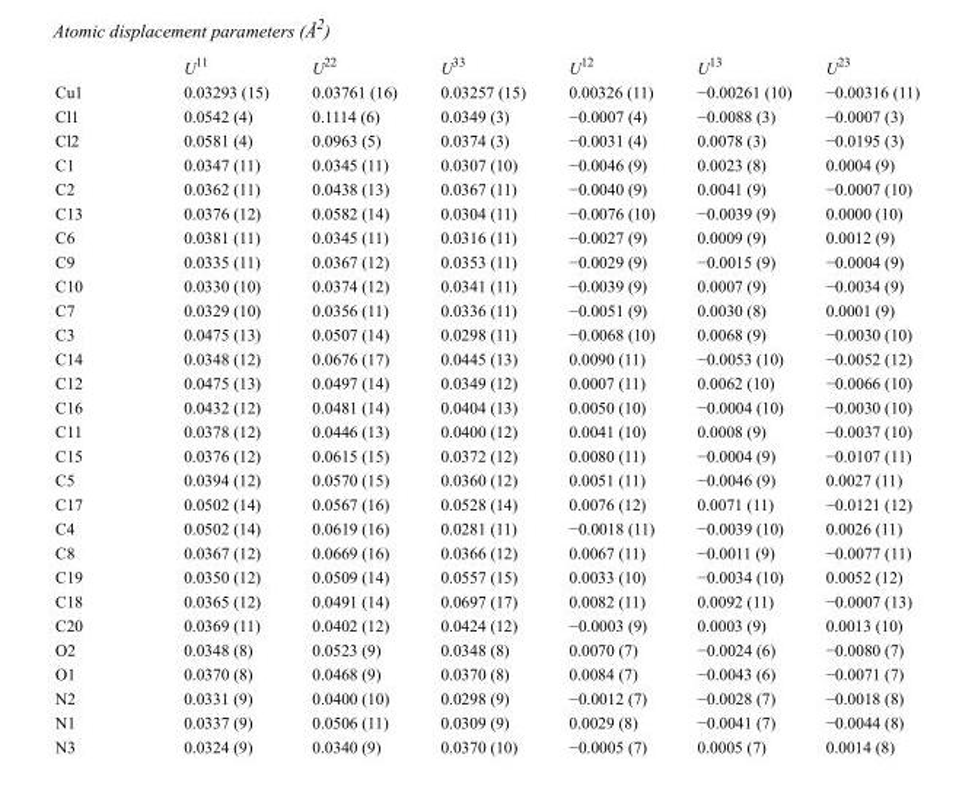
<table><thead><tr><td></td><td>U<sup>11</sup></td><td>U<sup>22</sup></td><td>U<sup>33</sup></td><td>U<sup>12</sup></td><td>U<sup>13</sup></td><td>U<sup>23</sup></td></tr></thead><tbody><tr><td>Cu1</td><td>0.03293 (15)</td><td>0.03761 (16)</td><td>0.03257 (15)</td><td>0.00326 (11)</td><td>−0.00261 (10)</td><td>−0.00316 (11)</td></tr><tr><td>Cl1</td><td>0.0542 (4)</td><td>0.1114 (6)</td><td>0.0349 (3)</td><td>−0.0007 (4)</td><td>−0.0088 (3)</td><td>−0.0007 (3)</td></tr><tr><td>Cl2</td><td>0.0581 (4)</td><td>0.0963 (5)</td><td>0.0374 (3)</td><td>−0.0031 (4)</td><td>0.0078 (3)</td><td>−0.0195 (3)</td></tr><tr><td>C1</td><td>0.0347 (11)</td><td>0.0345 (11)</td><td>0.0307 (10)</td><td>−0.0046 (9)</td><td>0.0023 (8)</td><td>0.0004 (9)</td></tr><tr><td>C2</td><td>0.0362 (11)</td><td>0.0438 (13)</td><td>0.0367 (11)</td><td>−0.0040 (9)</td><td>0.0041 (9)</td><td>−0.0007 (10)</td></tr><tr><td>C13</td><td>0.0376 (12)</td><td>0.0582 (14)</td><td>0.0304 (11)</td><td>−0.0076 (10)</td><td>−0.0039 (9)</td><td>0.0000 (10)</td></tr><tr><td>C6</td><td>0.0381 (11)</td><td>0.0345 (11)</td><td>0.0316 (11)</td><td>−0.0027 (9)</td><td>0.0009 (9)</td><td>0.0012 (9)</td></tr><tr><td>C9</td><td>0.0335 (11)</td><td>0.0367 (12)</td><td>0.0353 (11)</td><td>−0.0029 (9)</td><td>−0.0015 (9)</td><td>−0.0004 (9)</td></tr><tr><td>C10</td><td>0.0330 (10)</td><td>0.0374 (12)</td><td>0.0341 (11)</td><td>−0.0039 (9)</td><td>0.0007 (9)</td><td>−0.0034 (9)</td></tr><tr><td>C7</td><td>0.0329 (10)</td><td>0.0356 (11)</td><td>0.0336 (11)</td><td>−0.0051 (9)</td><td>0.0030 (8)</td><td>0.0001 (9)</td></tr><tr><td>C3</td><td>0.0475 (13)</td><td>0.0507 (14)</td><td>0.0298 (11)</td><td>−0.0068 (10)</td><td>0.0068 (9)</td><td>−0.0030 (10)</td></tr><tr><td>C14</td><td>0.0348 (12)</td><td>0.0676 (17)</td><td>0.0445 (13)</td><td>0.0090 (11)</td><td>−0.0053 (10)</td><td>−0.0052 (12)</td></tr><tr><td>C12</td><td>0.0475 (13)</td><td>0.0497 (14)</td><td>0.0349 (12)</td><td>0.0007 (11)</td><td>0.0062 (10)</td><td>−0.0066 (10)</td></tr><tr><td>C16</td><td>0.0432 (12)</td><td>0.0481 (14)</td><td>0.0404 (13)</td><td>0.0050 (10)</td><td>−0.0004 (10)</td><td>−0.0030 (10)</td></tr><tr><td>C11</td><td>0.0378 (12)</td><td>0.0446 (13)</td><td>0.0400 (12)</td><td>0.0041 (10)</td><td>0.0008 (9)</td><td>−0.0037 (10)</td></tr><tr><td>C15</td><td>0.0376 (12)</td><td>0.0615 (15)</td><td>0.0372 (12)</td><td>0.0080 (11)</td><td>−0.0004 (9)</td><td>−0.0107 (11)</td></tr><tr><td>C5</td><td>0.0394 (12)</td><td>0.0570 (15)</td><td>0.0360 (12)</td><td>0.0051 (11)</td><td>−0.0046 (9)</td><td>0.0027 (11)</td></tr><tr><td>C17</td><td>0.0502 (14)</td><td>0.0567 (16)</td><td>0.0528 (14)</td><td>0.0076 (12)</td><td>0.0071 (11)</td><td>−0.0121 (12)</td></tr><tr><td>C4</td><td>0.0502 (14)</td><td>0.0619 (16)</td><td>0.0281 (11)</td><td>−0.0018 (11)</td><td>−0.0039 (10)</td><td>0.0026 (11)</td></tr><tr><td>C8</td><td>0.0367 (12)</td><td>0.0669 (16)</td><td>0.0366 (12)</td><td>0.0067 (11)</td><td>−0.0011 (9)</td><td>−0.0077 (11)</td></tr><tr><td>C19</td><td>0.0350 (12)</td><td>0.0509 (14)</td><td>0.0557 (15)</td><td>0.0033 (10)</td><td>−0.0034 (10)</td><td>0.0052 (12)</td></tr><tr><td>C18</td><td>0.0365 (12)</td><td>0.0491 (14)</td><td>0.0697 (17)</td><td>0.0082 (11)</td><td>0.0092 (11)</td><td>−0.0007 (13)</td></tr><tr><td>C20</td><td>0.0369 (11)</td><td>0.0402 (12)</td><td>0.0424 (12)</td><td>−0.0003 (9)</td><td>0.0003 (9)</td><td>0.0013 (10)</td></tr><tr><td>O2</td><td>0.0348 (8)</td><td>0.0523 (9)</td><td>0.0348 (8)</td><td>0.0070 (7)</td><td>−0.0024 (6)</td><td>−0.0080 (7)</td></tr><tr><td>O1</td><td>0.0370 (8)</td><td>0.0468 (9)</td><td>0.0370 (8)</td><td>0.0084 (7)</td><td>−0.0043 (6)</td><td>−0.0071 (7)</td></tr><tr><td>N2</td><td>0.0331 (9)</td><td>0.0400 (10)</td><td>0.0298 (9)</td><td>−0.0012 (7)</td><td>−0.0028 (7)</td><td>−0.0018 (8)</td></tr><tr><td>N1</td><td>0.0337 (9)</td><td>0.0506 (11)</td><td>0.0309 (9)</td><td>0.0029 (8)</td><td>−0.0041 (7)</td><td>−0.0044 (8)</td></tr><tr><td>N3</td><td>0.0324 (9)</td><td>0.0340 (9)</td><td>0.0370 (10)</td><td>−0.0005 (7)</td><td>0.0005 (7)</td><td>0.0014 (8)</td></tr></tbody></table>